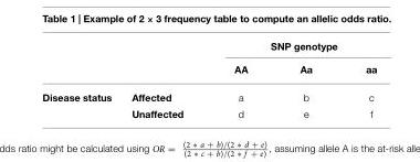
<table><thead><tr><td rowspan="2"></td><td rowspan="2"></td><td colspan="3">SNP genotype</td></tr><tr><td>AA</td><td>Aa</td><td>aa</td></tr></thead><tbody><tr><td rowspan="2">Disease status</td><td>Affected</td><td>a</td><td>b</td><td>c</td></tr><tr><td>Unaffected</td><td>d</td><td>e</td><td>f</td></tr></tbody></table>